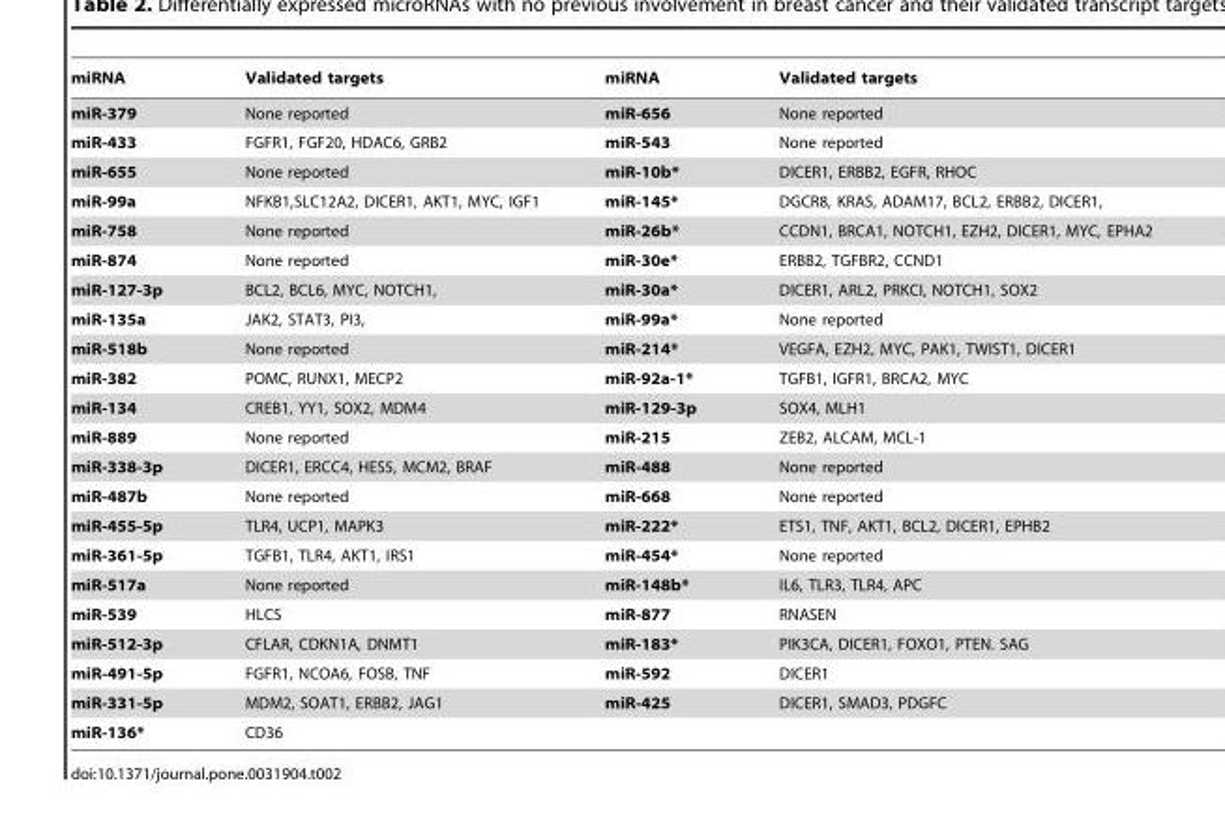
<table><thead><tr><td>miRNA</td><td>Validated targets</td><td>miRNA</td><td>Validated targets</td></tr></thead><tbody><tr><td>miR-379</td><td>None reported</td><td>miR-656</td><td>None reported</td></tr><tr><td>miR-433</td><td>FGFR1, FGF20, HDAC6, GRB2</td><td>miR-543</td><td>None reported</td></tr><tr><td>miR-655</td><td>None reported</td><td>miR-10b*</td><td>DICER1, ERBB2, EGFR, RHOC</td></tr><tr><td>miR-99a</td><td>NFKB1,SLC12A2, DICER1, AKT1, MYC, IGF1</td><td>miR-145*</td><td>DGCR8, KRAS, ADAM17, BCL2, ERBB2, DICER1,</td></tr><tr><td>miR-758</td><td>None reported</td><td>miR-26b*</td><td>CCDN1, BRCA1, NOTCH1, EZH2, DICER1, MYC, EPHA2</td></tr><tr><td>miR-874</td><td>None reported</td><td>miR-30e*</td><td>ERBB2, TGFBR2, CCND1</td></tr><tr><td>miR-127-3p</td><td>BCL2, BCL6, MYC, NOTCH1,</td><td>miR-30a*</td><td>DICER1, ARL2, PRKCI, NOTCH1, SOX2</td></tr><tr><td>miR-135a</td><td>JAK2, STAT3, PI3,</td><td>miR-99a*</td><td>None reported</td></tr><tr><td>miR-518b</td><td>None reported</td><td>miR-214*</td><td>VEGFA, EZH2, MYC, PAK1, TWIST1, DICER1</td></tr><tr><td>miR-382</td><td>POMC, RUNX1, MECP2</td><td>miR-92a-1*</td><td>TGFB1, IGFR1, BRCA2, MYC</td></tr><tr><td>miR-134</td><td>CREB1, YY1, SOX2, MDM4</td><td>miR-129-3p</td><td>SOX4, MLH1</td></tr><tr><td>miR-889</td><td>None reported</td><td>miR-215</td><td>ZEB2, ALCAM, MCL-1</td></tr><tr><td>miR-338-3p</td><td>DICER1, ERCC4, HES5, MCM2, BRAF</td><td>miR-488</td><td>None reported</td></tr><tr><td>miR-487b</td><td>None reported</td><td>miR-668</td><td>None reported</td></tr><tr><td>miR-455-5p</td><td>TLR4, UCP1, MAPK3</td><td>miR-222*</td><td>ETS1, TNF, AKT1, BCL2, DICER1, EPHB2</td></tr><tr><td>miR-361-5p</td><td>TGFB1, TLR4, AKT1, IRS1</td><td>miR-454*</td><td>None reported</td></tr><tr><td>miR-517a</td><td>None reported</td><td>miR-148b*</td><td>IL6, TLR3, TLR4, APC</td></tr><tr><td>miR-539</td><td>HLCS</td><td>miR-877</td><td>RNASEN</td></tr><tr><td>miR-512-3p</td><td>CFLAR, CDKN1A, DNMT1</td><td>miR-183*</td><td>PIK3CA, DICER1, FOXO1, PTEN. SAG</td></tr><tr><td>miR-491-5p</td><td>FGFR1, NCOA6, FOSB, TNF</td><td>miR-592</td><td>DICER1</td></tr><tr><td>miR-331-5p</td><td>MDM2, SOAT1, ERBB2, JAG1</td><td>miR-425</td><td>DICER1, SMAD3, PDGFC</td></tr><tr><td>miR-136*</td><td>CD36</td><td></td><td></td></tr></tbody></table>